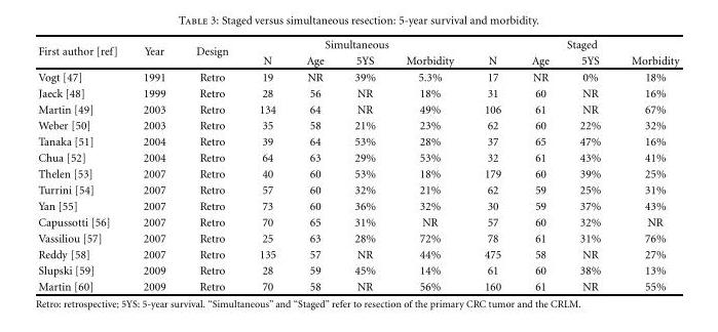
<table><thead><tr><td rowspan="2">First author [ref]</td><td rowspan="2">Year</td><td rowspan="2">Design</td><td colspan="4">Simultaneous</td><td colspan="4">Staged</td></tr><tr><td>N</td><td>Age</td><td>5YS</td><td>Morbidity</td><td>N</td><td>Age</td><td>5YS</td><td>Morbidity</td></tr></thead><tbody><tr><td>Vogt [47]</td><td>1991</td><td>Retro</td><td>19</td><td>NR</td><td>39%</td><td>5.3%</td><td>17</td><td>NR</td><td>0%</td><td>18%</td></tr><tr><td>Jaeck [48]</td><td>1999</td><td>Retro</td><td>28</td><td>56</td><td>NR</td><td>18%</td><td>31</td><td>60</td><td>NR</td><td>16%</td></tr><tr><td>Martin [49]</td><td>2003</td><td>Retro</td><td>134</td><td>64</td><td>NR</td><td>49%</td><td>106</td><td>61</td><td>NR</td><td>67%</td></tr><tr><td>Weber [50]</td><td>2003</td><td>Retro</td><td>35</td><td>58</td><td>21%</td><td>23%</td><td>62</td><td>60</td><td>22%</td><td>32%</td></tr><tr><td>Tanaka [51]</td><td>2004</td><td>Retro</td><td>39</td><td>64</td><td>53%</td><td>28%</td><td>37</td><td>65</td><td>47%</td><td>16%</td></tr><tr><td>Chua [52]</td><td>2004</td><td>Retro</td><td>64</td><td>63</td><td>29%</td><td>53%</td><td>32</td><td>61</td><td>43%</td><td>41%</td></tr><tr><td>Thelen [53]</td><td>2007</td><td>Retro</td><td>40</td><td>60</td><td>53%</td><td>18%</td><td>179</td><td>60</td><td>39%</td><td>25%</td></tr><tr><td>Turrini [54]</td><td>2007</td><td>Retro</td><td>57</td><td>60</td><td>32%</td><td>21%</td><td>62</td><td>59</td><td>25%</td><td>31%</td></tr><tr><td>Yan [55]</td><td>2007</td><td>Retro</td><td>73</td><td>60</td><td>36%</td><td>32%</td><td>30</td><td>59</td><td>37%</td><td>43%</td></tr><tr><td>Capussotti [56]</td><td>2007</td><td>Retro</td><td>70</td><td>65</td><td>31%</td><td>NR</td><td>57</td><td>60</td><td>32%</td><td>NR</td></tr><tr><td>Vassiliou [57]</td><td>2007</td><td>Retro</td><td>25</td><td>63</td><td>28%</td><td>72%</td><td>78</td><td>61</td><td>31%</td><td>76%</td></tr><tr><td>Reddy [58]</td><td>2007</td><td>Retro</td><td>135</td><td>57</td><td>NR</td><td>44%</td><td>475</td><td>58</td><td>NR</td><td>27%</td></tr><tr><td>Slupski [59]</td><td>2009</td><td>Retro</td><td>28</td><td>59</td><td>45%</td><td>14%</td><td>61</td><td>60</td><td>38%</td><td>13%</td></tr><tr><td>Martin [60]</td><td>2009</td><td>Retro</td><td>70</td><td>58</td><td>NR</td><td>56%</td><td>160</td><td>61</td><td>NR</td><td>55%</td></tr></tbody></table>